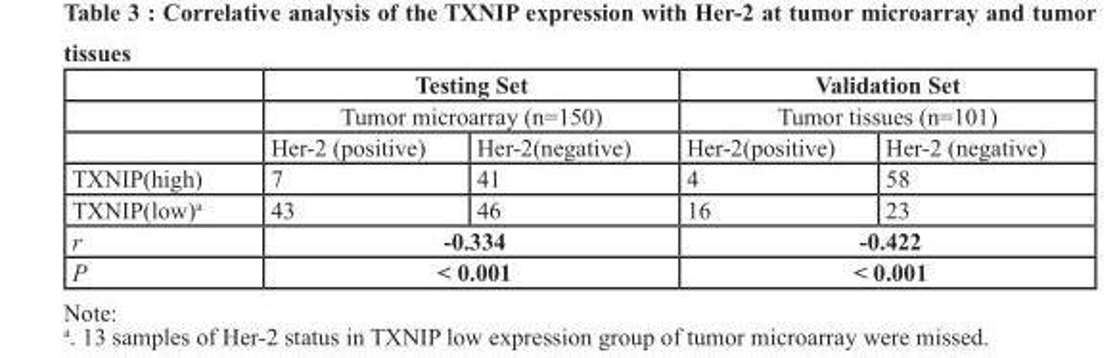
<table><thead><tr><td rowspan="3"></td><td rowspan="2" colspan="2">Testing Set Tumor microarray (n=150)</td><td rowspan="2" colspan="2">Validation Set Tumor tissues (n=101)</td></tr><tr></tr><tr><td>Her-2 (positive)</td><td>Her-2(negative)</td><td>Her-2(positive)</td><td>Her-2 (negative)</td></tr></thead><tbody><tr><td>TXNIP(high)</td><td>7</td><td>41</td><td>4</td><td>58</td></tr><tr><td>TXNIP(low)<sup>a</sup></td><td>43</td><td>46</td><td>16</td><td>23</td></tr><tr><td>r</td><td colspan="2">-0.334</td><td colspan="2">-0.422</td></tr><tr><td>P</td><td colspan="2">&lt; 0.001</td><td colspan="2">&lt; 0.001</td></tr></tbody></table>